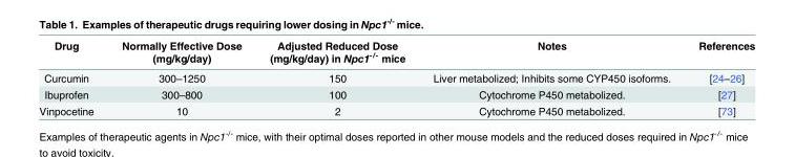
<table><thead><tr><td>Drug</td><td>Normally Effective Dose (mg/kg/day)</td><td>Adjusted Reduced Dose (mg/kg/day) in Npc1<sup>-/-</sup> mice</td><td>Notes</td><td>References</td></tr></thead><tbody><tr><td>Curcumin</td><td>300–1250</td><td>150</td><td>Liver metabolized; Inhibits some CYP450 isoforms.</td><td>[24–26]</td></tr><tr><td>Ibuprofen</td><td>300–800</td><td>100</td><td>Cytochrome P450 metabolized.</td><td>[27]</td></tr><tr><td>Vinpocetine</td><td>10</td><td>2</td><td>Cytochrome P450 metabolized.</td><td>[73]</td></tr></tbody></table>